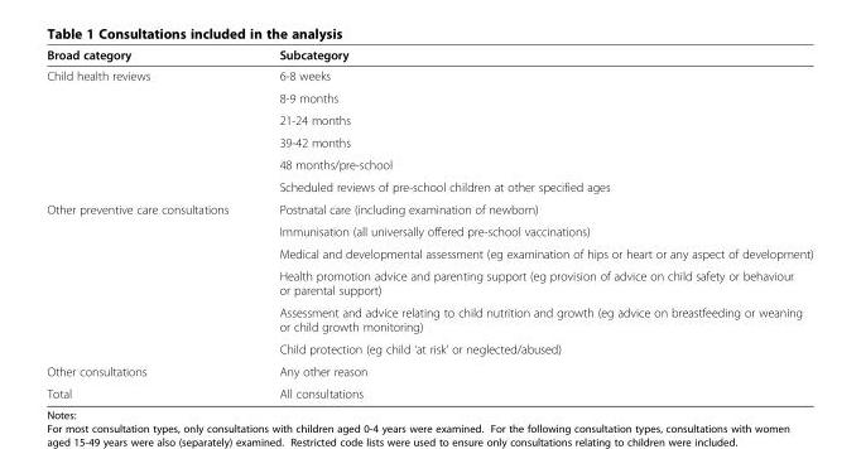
<table><thead><tr><td>Broad category</td><td>Subcategory</td></tr></thead><tbody><tr><td rowspan="6">Child health reviews</td><td>6-8 weeks</td></tr><tr><td>8-9 months</td></tr><tr><td>21-24 months</td></tr><tr><td>39-42 months</td></tr><tr><td>48 months/pre-school</td></tr><tr><td>Scheduled reviews of pre-school children at other specified ages</td></tr><tr><td rowspan="6">Other preventive care consultations</td><td>Postnatal care (including examination of newborn)</td></tr><tr><td>Immunisation (all universally offered pre-school vaccinations)</td></tr><tr><td>Medical and developmental assessment (eg examination of hips or heart or any aspect of development)</td></tr><tr><td>Health promotion advice and parenting support (eg provision of advice on child safety or behaviour or parental support)</td></tr><tr><td>Assessment and advice relating to child nutrition and growth (eg advice on breastfeeding or weaning or child growth monitoring)</td></tr><tr><td>Child protection (eg child ‘at risk’ or neglected/abused)</td></tr><tr><td>Other consultations</td><td>Any other reason</td></tr><tr><td>Total</td><td>All consultations</td></tr></tbody></table>